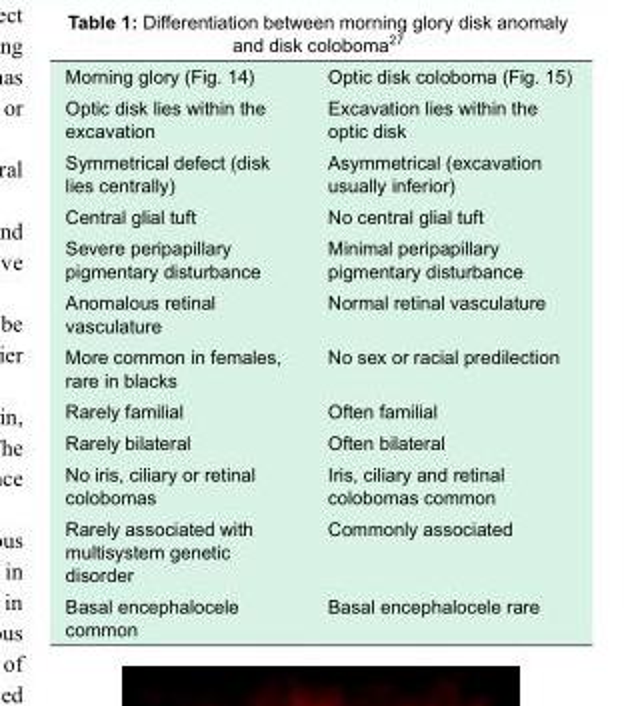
<table><tbody><tr><td>Morning glory (Fig. 14)</td><td>Optic disk coloboma (Fig. 15)</td></tr><tr><td>Optic disk lies within the excavation</td><td>Excavation lies within the optic disk</td></tr><tr><td>Symmetrical defect (disk lies centrally)</td><td>Asymmetrical (excavation usually inferior)</td></tr><tr><td>Central glial tuft</td><td>No central glial tuft</td></tr><tr><td>Severe peripapillary pigmentary disturbance</td><td>Minimal peripapillary pigmentary disturbance</td></tr><tr><td>Anomalous retinal vasculature</td><td>Normal retinal vasculature</td></tr><tr><td>More common in females, rare in blacks</td><td>No sex or racial predilection</td></tr><tr><td>Rarely familial</td><td>Often familial</td></tr><tr><td>Rarely bilateral</td><td>Often bilateral</td></tr><tr><td>No iris, ciliary or retinal colobomas</td><td>Iris, ciliary and retinal colobomas common</td></tr><tr><td>Rarely associated with multisystem genetic disorder</td><td>Commonly associated</td></tr><tr><td>Basal encephalocele common</td><td>Basal encephalocele rare</td></tr></tbody></table>